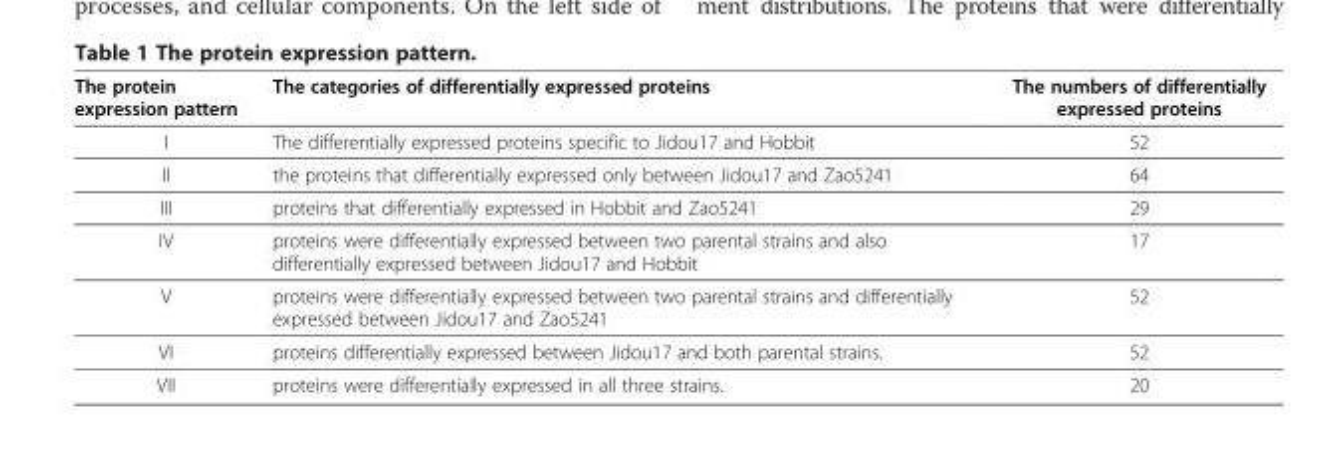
<table><thead><tr><td>The protein expression pattern</td><td>The categories of differentially expressed proteins</td><td>The numbers of differentially expressed proteins</td></tr></thead><tbody><tr><td>I</td><td>The differentially expressed proteins specific to Jidou17 and Hobbit</td><td>52</td></tr><tr><td>II</td><td>the proteins that differentially expressed only between Jidou17 and Zao5241</td><td>64</td></tr><tr><td>III</td><td>proteins that differentially expressed in Hobbit and Zao5241</td><td>29</td></tr><tr><td>IV</td><td>proteins were differentially expressed between two parental strains and also differentially expressed between Jidou17 and Hobbit</td><td>17</td></tr><tr><td>V</td><td>proteins were differentially expressed between two parental strains and differentially expressed between Jidou17 and Zao5241</td><td>52</td></tr><tr><td>VI</td><td>proteins differentially expressed between Jidou17 and both parental strains.</td><td>52</td></tr><tr><td>VII</td><td>proteins were differentially expressed in all three strains.</td><td>20</td></tr></tbody></table>